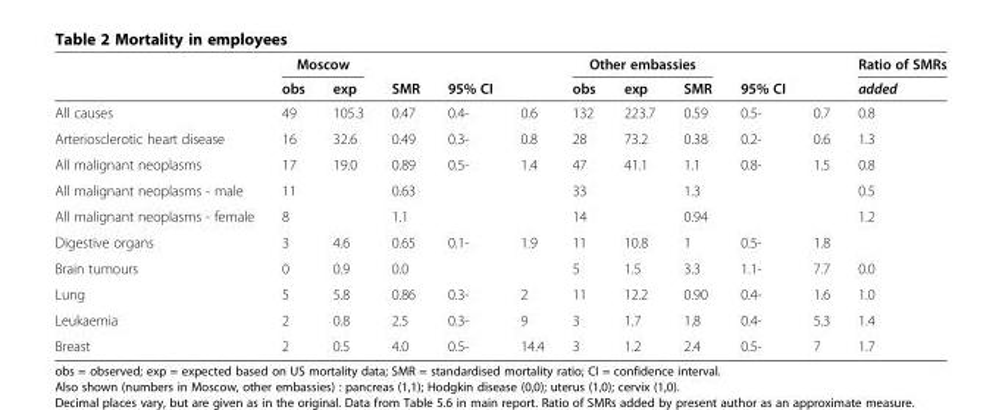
<table><thead><tr><td rowspan="2"></td><td colspan="2">Moscow</td><td rowspan="2">SMR</td><td rowspan="2">95% CI</td><td rowspan="2"></td><td colspan="3">Other embassies</td><td rowspan="2">95% CI</td><td rowspan="2"></td><td rowspan="2">Ratio of SMRs added</td></tr><tr><td>obs</td><td>exp</td><td>obs</td><td>exp</td><td>SMR</td></tr></thead><tbody><tr><td>All causes</td><td>49</td><td>105.3</td><td>0.47</td><td>0.4-</td><td>0.6</td><td>132</td><td>223.7</td><td>0.59</td><td>0.5-</td><td>0.7</td><td>0.8</td></tr><tr><td>Arteriosclerotic heart disease</td><td>16</td><td>32.6</td><td>0.49</td><td>0.3-</td><td>0.8</td><td>28</td><td>73.2</td><td>0.38</td><td>0.2-</td><td>0.6</td><td>1.3</td></tr><tr><td>All malignant neoplasms</td><td>17</td><td>19.0</td><td>0.89</td><td>0.5-</td><td>1.4</td><td>47</td><td>41.1</td><td>1.1</td><td>0.8-</td><td>1.5</td><td>0.8</td></tr><tr><td>All malignant neoplasms - male</td><td>11</td><td></td><td>0.63</td><td></td><td></td><td>33</td><td></td><td>1.3</td><td></td><td></td><td>0.5</td></tr><tr><td>All malignant neoplasms - female</td><td>8</td><td></td><td>1.1</td><td></td><td></td><td>14</td><td></td><td>0.94</td><td></td><td></td><td>1.2</td></tr><tr><td>Digestive organs</td><td>3</td><td>4.6</td><td>0.65</td><td>0.1-</td><td>1.9</td><td>11</td><td>10.8</td><td>1</td><td>0.5-</td><td>1.8</td><td></td></tr><tr><td>Brain tumours</td><td>0</td><td>0.9</td><td>0.0</td><td></td><td></td><td>5</td><td>1.5</td><td>3.3</td><td>1.1-</td><td>7.7</td><td>0.0</td></tr><tr><td>Lung</td><td>5</td><td>5.8</td><td>0.86</td><td>0.3-</td><td>2</td><td>11</td><td>12.2</td><td>0.90</td><td>0.4-</td><td>1.6</td><td>1.0</td></tr><tr><td>Leukaemia</td><td>2</td><td>0.8</td><td>2.5</td><td>0.3-</td><td>9</td><td>3</td><td>1.7</td><td>1.8</td><td>0.4-</td><td>5.3</td><td>1.4</td></tr><tr><td>Breast</td><td>2</td><td>0.5</td><td>4.0</td><td>0.5-</td><td>14.4</td><td>3</td><td>1.2</td><td>2.4</td><td>0.5-</td><td>7</td><td>1.7</td></tr></tbody></table>